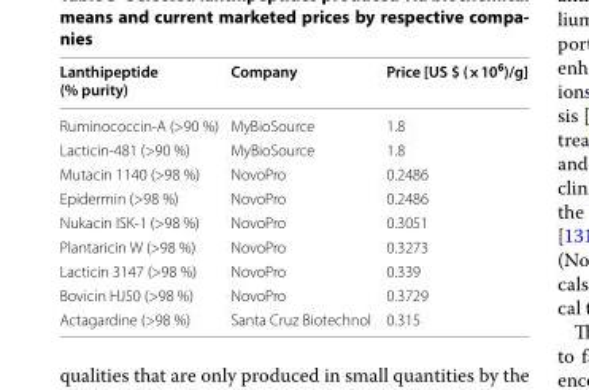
<table><thead><tr><td>Lanthipeptide (% purity)</td><td>Company</td><td>Price [US $ (×10<sup>6</sup>)/g]</td></tr></thead><tbody><tr><td>Ruminococcin-A (&gt;90 %)</td><td>MyBioSource</td><td>1.8</td></tr><tr><td>Lacticin-481 (&gt;90 %)</td><td>MyBioSource</td><td>1.8</td></tr><tr><td>Mutacin 1140 (&gt;98 %)</td><td>NovoPro</td><td>0.2486</td></tr><tr><td>Epidermin (&gt;98 %)</td><td>NovoPro</td><td>0.2486</td></tr><tr><td>Nukacin ISK-1 (&gt;98 %)</td><td>NovoPro</td><td>0.3051</td></tr><tr><td>Plantaricin W (&gt;98 %)</td><td>NovoPro</td><td>0.3273</td></tr><tr><td>Lacticin 3147 (&gt;98 %)</td><td>NovoPro</td><td>0.339</td></tr><tr><td>Bovicin HJ50 (&gt;98 %)</td><td>NovoPro</td><td>0.3729</td></tr><tr><td>Actagardine (&gt;98 %)</td><td>Santa Cruz Biotechnol</td><td>0.315</td></tr></tbody></table>